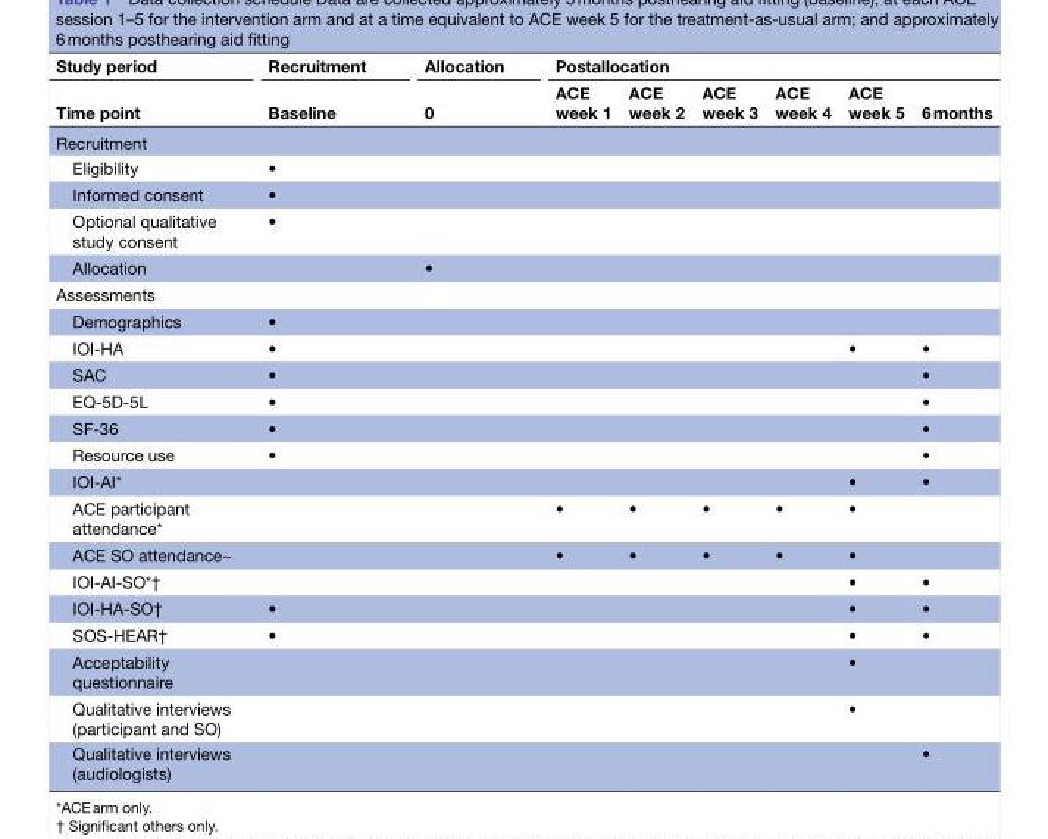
<table><thead><tr><td rowspan="2">Study period Time point</td><td rowspan="2">Recruitment Baseline</td><td rowspan="2">Allocation 0</td><td colspan="6">Postallocation</td></tr><tr><td>ACE week 1</td><td>ACE week 2</td><td>ACE week 3</td><td>ACE week 4</td><td>ACE week 5</td><td>6 months</td></tr></thead><tbody><tr><td colspan="9">Recruitment</td></tr><tr><td>Eligibility</td><td>•</td><td></td><td></td><td></td><td></td><td></td><td></td><td></td></tr><tr><td>Informed consent</td><td>•</td><td></td><td></td><td></td><td></td><td></td><td></td><td></td></tr><tr><td>Optional qualitative study consent</td><td>•</td><td></td><td></td><td></td><td></td><td></td><td></td><td></td></tr><tr><td>Allocation</td><td></td><td>•</td><td></td><td></td><td></td><td></td><td></td><td></td></tr><tr><td colspan="9">Assessments</td></tr><tr><td>Demographics</td><td>•</td><td></td><td></td><td></td><td></td><td></td><td></td><td></td></tr><tr><td>IOI-HA</td><td>•</td><td></td><td></td><td></td><td></td><td></td><td>•</td><td>•</td></tr><tr><td>SAC</td><td>•</td><td></td><td></td><td></td><td></td><td></td><td></td><td>•</td></tr><tr><td>EQ-5D-5L</td><td>•</td><td></td><td></td><td></td><td></td><td></td><td></td><td>•</td></tr><tr><td>SF-36</td><td>•</td><td></td><td></td><td></td><td></td><td></td><td></td><td>•</td></tr><tr><td>Resource use</td><td>•</td><td></td><td></td><td></td><td></td><td></td><td></td><td>•</td></tr><tr><td>IOI-AI*</td><td></td><td></td><td></td><td></td><td></td><td></td><td>•</td><td>•</td></tr><tr><td>ACE participant attendance*</td><td></td><td></td><td>•</td><td>•</td><td>•</td><td>•</td><td>•</td><td></td></tr><tr><td>ACE SO attendance~</td><td></td><td></td><td>•</td><td>•</td><td>•</td><td>•</td><td>•</td><td></td></tr><tr><td>IOI-AI-SO*†</td><td></td><td></td><td></td><td></td><td></td><td></td><td>•</td><td>•</td></tr><tr><td>IOI-HA-SO†</td><td>•</td><td></td><td></td><td></td><td></td><td></td><td>•</td><td>•</td></tr><tr><td>SOS-HEAR†</td><td>•</td><td></td><td></td><td></td><td></td><td></td><td>•</td><td>•</td></tr><tr><td>Acceptability questionnaire</td><td></td><td></td><td></td><td></td><td></td><td></td><td>•</td><td></td></tr><tr><td>Qualitative interviews (participant and SO)</td><td></td><td></td><td></td><td></td><td></td><td></td><td>•</td><td></td></tr><tr><td>Qualitative interviews (audiologists)</td><td></td><td></td><td></td><td></td><td></td><td></td><td></td><td>•</td></tr></tbody></table>